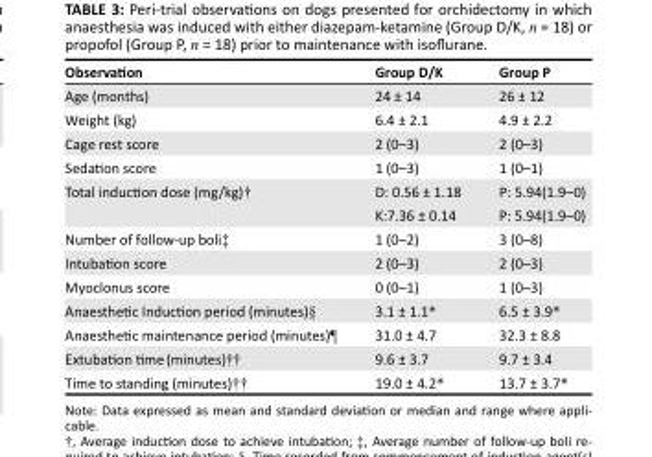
<table><thead><tr><td>Observation</td><td>Group D/K</td><td>Group P</td></tr></thead><tbody><tr><td>Age (months)</td><td>24 ± 14</td><td>26 ± 12</td></tr><tr><td>Weight (kg)</td><td>6.4 ± 2.1</td><td>4.9 ± 2.2</td></tr><tr><td>Cage rest score</td><td>2 (0–3)</td><td>2 (0–3)</td></tr><tr><td>Sedation score</td><td>1 (0–3)</td><td>1 (0–1)</td></tr><tr><td rowspan="2">Total induction dose (mg/kg)†</td><td>D: 0.56 ± 1.18</td><td>P: 5.94(1.9–0)</td></tr><tr><td>K:7.36 ± 0.14</td><td>P: 5.94(1.9–0)</td></tr><tr><td>Number of follow-up boli‡</td><td>1 (0–2)</td><td>3 (0–8)</td></tr><tr><td>Intubation score</td><td>2 (0–3)</td><td>2 (0–3)</td></tr><tr><td>Myoclonus score</td><td>0 (0–1)</td><td>1 (0–3)</td></tr><tr><td>Anaesthetic Induction period (minutes)§</td><td>3.1 ± 1.1*</td><td>6.5 ± 3.9*</td></tr><tr><td>Anaesthetic maintenance period (minutes)¶</td><td>31.0 ± 4.7</td><td>32.3 ± 8.8</td></tr><tr><td>Extubation time (minutes)††</td><td>9.6 ± 3.7</td><td>9.7 ± 3.4</td></tr><tr><td>Time to standing (minutes)††</td><td>19.0 ± 4.2*</td><td>13.7 ± 3.7*</td></tr></tbody></table>